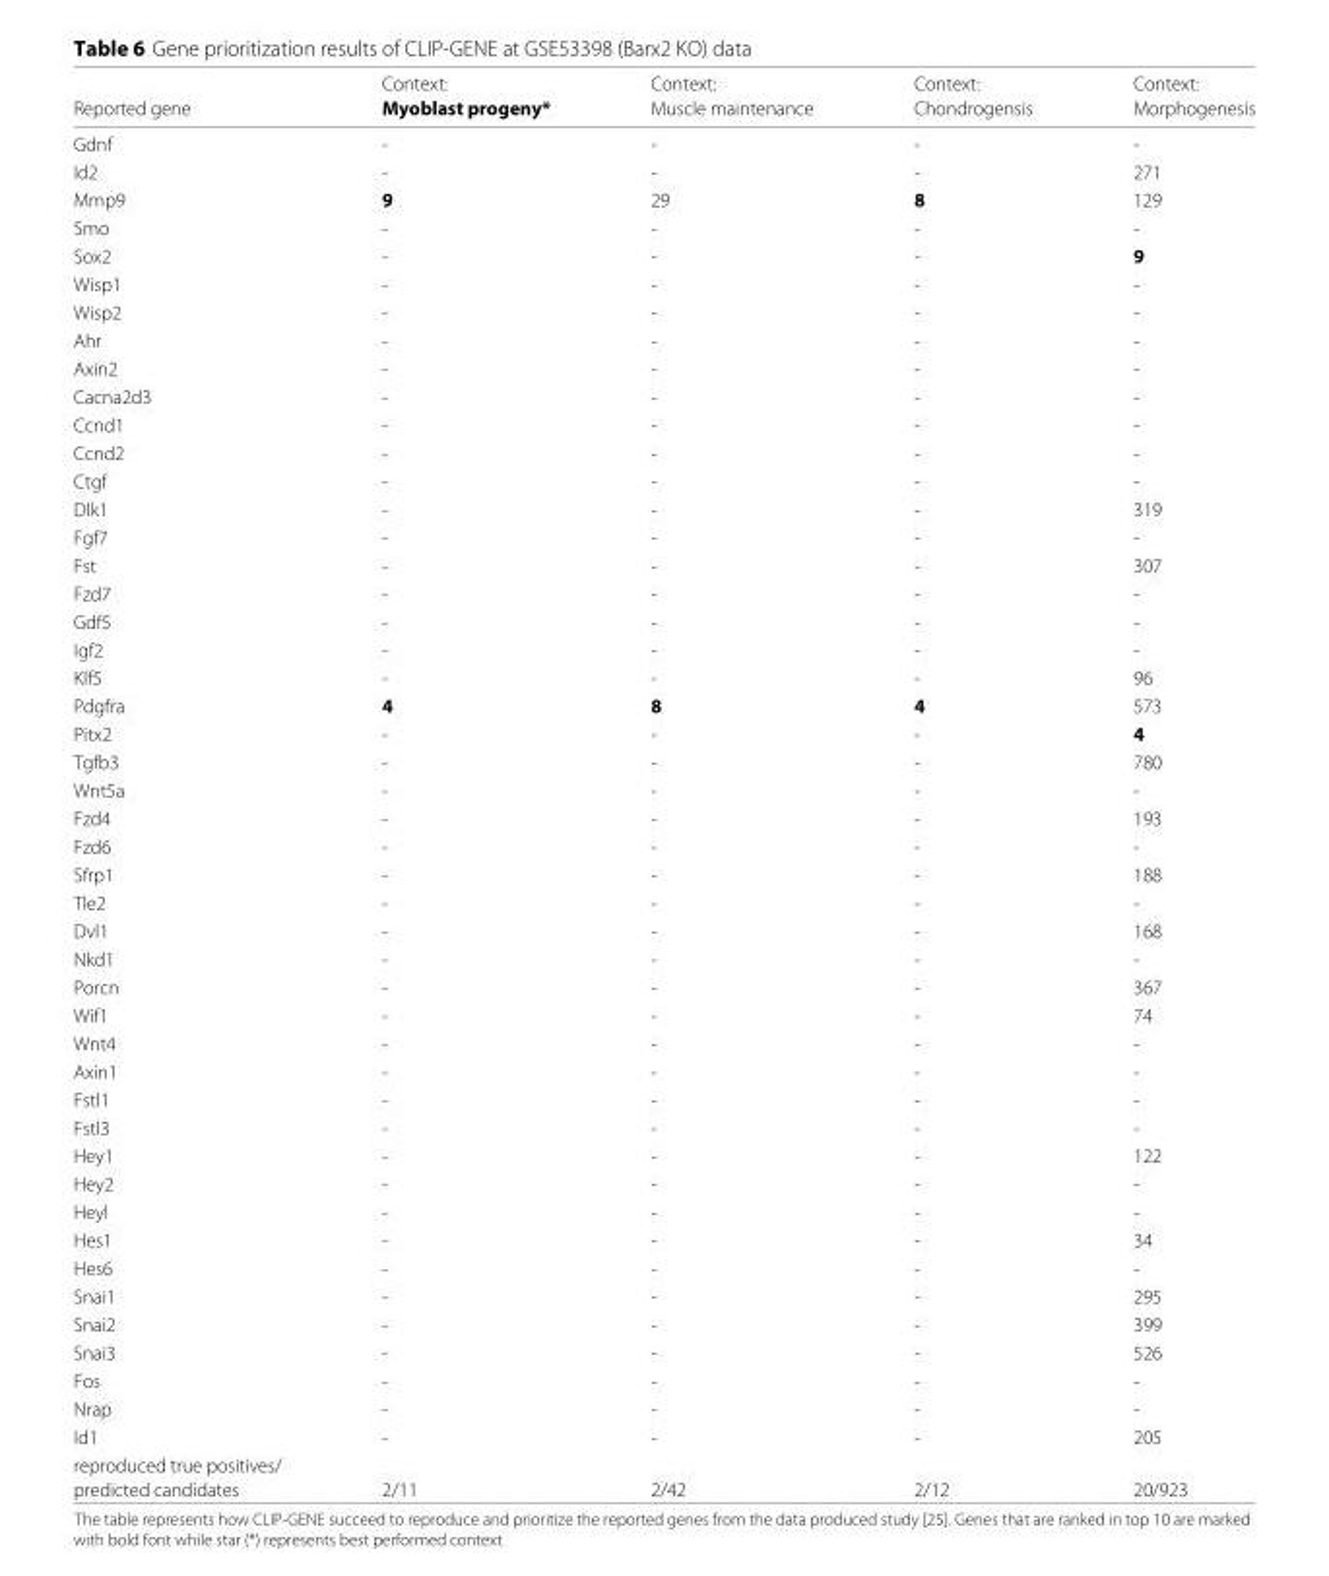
<table><thead><tr><td rowspan="2">Reported gene</td><td rowspan="2">Context: Myoblast progeny*</td><td rowspan="2">Context: Muscle maintenance</td><td rowspan="2">Context: Chondrogensis</td><td rowspan="2">Context: Morphogenesis</td></tr><tr></tr></thead><tbody><tr><td>Gdnf</td><td>-</td><td>-</td><td>-</td><td>-</td></tr><tr><td>Id2</td><td>-</td><td>-</td><td>-</td><td>271</td></tr><tr><td>Mmp9</td><td>9</td><td>29</td><td>8</td><td>129</td></tr><tr><td>Smo</td><td>-</td><td>-</td><td>-</td><td>-</td></tr><tr><td>Sox2</td><td>-</td><td>-</td><td>-</td><td>9</td></tr><tr><td>Wisp1</td><td>-</td><td>-</td><td>-</td><td>-</td></tr><tr><td>Wisp2</td><td>-</td><td>-</td><td>-</td><td>-</td></tr><tr><td>Ahr</td><td>-</td><td>-</td><td>-</td><td>-</td></tr><tr><td>Axin2</td><td>-</td><td>-</td><td>-</td><td>-</td></tr><tr><td>Cacna2d3</td><td>-</td><td>-</td><td>-</td><td>-</td></tr><tr><td>Ccnd1</td><td>-</td><td>-</td><td>-</td><td>-</td></tr><tr><td>Ccnd2</td><td>-</td><td>-</td><td>-</td><td>-</td></tr><tr><td>Ctgf</td><td>-</td><td>-</td><td>-</td><td>-</td></tr><tr><td>Dlk1</td><td>-</td><td>-</td><td>-</td><td>319</td></tr><tr><td>Fgf7</td><td>-</td><td>-</td><td>-</td><td>-</td></tr><tr><td>Fst</td><td>-</td><td>-</td><td>-</td><td>307</td></tr><tr><td>Fzd7</td><td>-</td><td>-</td><td>-</td><td>-</td></tr><tr><td>Gdf5</td><td>-</td><td>-</td><td>-</td><td>-</td></tr><tr><td>Igf2</td><td>-</td><td>-</td><td>-</td><td>-</td></tr><tr><td>Klf5</td><td>-</td><td>-</td><td>-</td><td>96</td></tr><tr><td>Pdgfra</td><td>4</td><td>8</td><td>4</td><td>573</td></tr><tr><td>Pitx2</td><td>-</td><td>-</td><td>-</td><td>4</td></tr><tr><td>Tgfb3</td><td>-</td><td>-</td><td>-</td><td>780</td></tr><tr><td>Wnt5a</td><td>-</td><td>-</td><td>-</td><td>-</td></tr><tr><td>Fzd4</td><td>-</td><td>-</td><td>-</td><td>193</td></tr><tr><td>Fzd6</td><td>-</td><td>-</td><td>-</td><td>-</td></tr><tr><td>Sfrp1</td><td>-</td><td>-</td><td>-</td><td>188</td></tr><tr><td>Tle2</td><td>-</td><td>-</td><td>-</td><td>-</td></tr><tr><td>Dvl1</td><td>-</td><td>-</td><td>-</td><td>168</td></tr><tr><td>Nkd1</td><td>-</td><td>-</td><td>-</td><td>-</td></tr><tr><td>Porcn</td><td>-</td><td>-</td><td>-</td><td>367</td></tr><tr><td>Wif1</td><td>-</td><td>-</td><td>-</td><td>74</td></tr><tr><td>Wnt4</td><td>-</td><td>-</td><td>-</td><td>-</td></tr><tr><td>Axin1</td><td>-</td><td>-</td><td>-</td><td>-</td></tr><tr><td>Fstl1</td><td>-</td><td>-</td><td>-</td><td>-</td></tr><tr><td>Fstl3</td><td>-</td><td>-</td><td>-</td><td>-</td></tr><tr><td>Hey1</td><td>-</td><td>-</td><td>-</td><td>122</td></tr><tr><td>Hey2</td><td>-</td><td>-</td><td>-</td><td>-</td></tr><tr><td>Heyl</td><td>-</td><td>-</td><td>-</td><td>-</td></tr><tr><td>Hes1</td><td>-</td><td>-</td><td>-</td><td>34</td></tr><tr><td>Hes6</td><td>-</td><td>-</td><td>-</td><td>-</td></tr><tr><td>Snai1</td><td>-</td><td>-</td><td>-</td><td>295</td></tr><tr><td>Snai2</td><td>-</td><td>-</td><td>-</td><td>399</td></tr><tr><td>Snai3</td><td>-</td><td>-</td><td>-</td><td>526</td></tr><tr><td>Fos</td><td>-</td><td>-</td><td>-</td><td>-</td></tr><tr><td>Nrap</td><td>-</td><td>-</td><td>-</td><td>-</td></tr><tr><td>Id1</td><td>-</td><td>-</td><td>-</td><td>205</td></tr><tr><td colspan="5">reproduced true positives/</td></tr><tr><td>predicted candidates</td><td>2/11</td><td>2/42</td><td>2/12</td><td>20/923</td></tr></tbody></table>